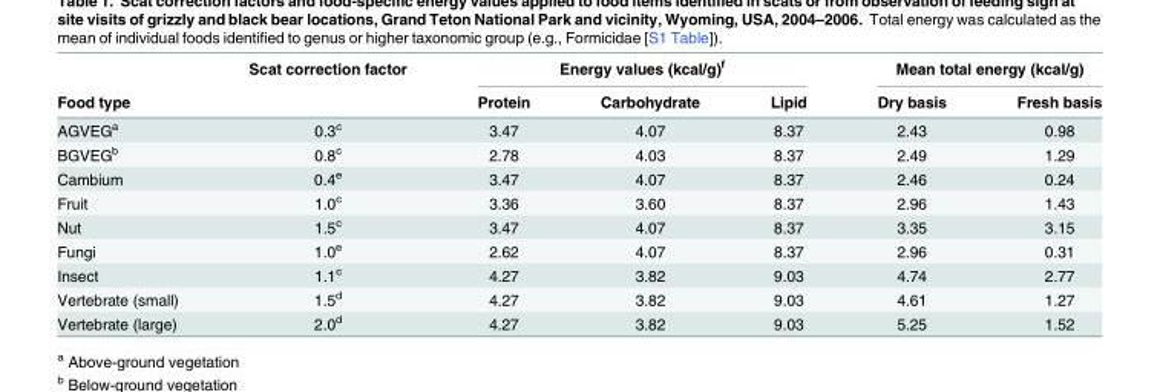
<table><thead><tr><td rowspan="2">Food type</td><td rowspan="2">Scat correction factor</td><td colspan="3">Energy values (kcal/g)<sup>f</sup></td><td colspan="2">Mean total energy (kcal/g)</td></tr><tr><td>Protein</td><td>Carbohydrate</td><td>Lipid</td><td>Dry basis</td><td>Fresh basis</td></tr></thead><tbody><tr><td>AGVEG<sup>a</sup></td><td>0.3<sup>c</sup></td><td>3.47</td><td>4.07</td><td>8.37</td><td>2.43</td><td>0.98</td></tr><tr><td>BGVEG<sup>b</sup></td><td>0.8<sup>c</sup></td><td>2.78</td><td>4.03</td><td>8.37</td><td>2.49</td><td>1.29</td></tr><tr><td>Cambium</td><td>0.4<sup>e</sup></td><td>3.47</td><td>4.07</td><td>8.37</td><td>2.46</td><td>0.24</td></tr><tr><td>Fruit</td><td>1.0<sup>c</sup></td><td>3.36</td><td>3.60</td><td>8.37</td><td>2.96</td><td>1.43</td></tr><tr><td>Nut</td><td>1.5<sup>c</sup></td><td>3.47</td><td>4.07</td><td>8.37</td><td>3.35</td><td>3.15</td></tr><tr><td>Fungi</td><td>1.0<sup>e</sup></td><td>2.62</td><td>4.07</td><td>8.37</td><td>2.96</td><td>0.31</td></tr><tr><td>Insect</td><td>1.1<sup>c</sup></td><td>4.27</td><td>3.82</td><td>9.03</td><td>4.74</td><td>2.77</td></tr><tr><td>Vertebrate (small)</td><td>1.5<sup>d</sup></td><td>4.27</td><td>3.82</td><td>9.03</td><td>4.61</td><td>1.27</td></tr><tr><td>Vertebrate (large)</td><td>2.0<sup>d</sup></td><td>4.27</td><td>3.82</td><td>9.03</td><td>5.25</td><td>1.52</td></tr></tbody></table>